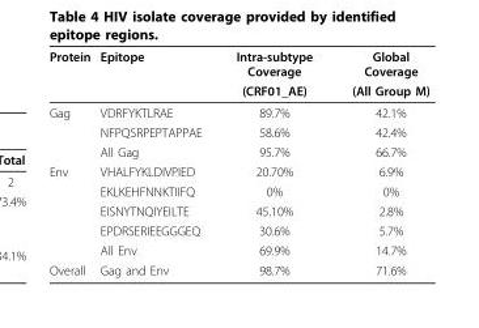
<table><thead><tr><td rowspan="2">Protein</td><td rowspan="2">Epitope</td><td rowspan="2">Intra-subtype Coverage (CRF01_AE)</td><td rowspan="2">Global Coverage (All Group M)</td></tr><tr></tr></thead><tbody><tr><td rowspan="3">Gag</td><td>VDRFYKTLRAE</td><td>89.7%</td><td>42.1%</td></tr><tr><td>NFPQSRPEPTAPPAE</td><td>58.6%</td><td>42.4%</td></tr><tr><td>All Gag</td><td>95.7%</td><td>66.7%</td></tr><tr><td rowspan="5">Env</td><td>VHALFYKLDIVPIED</td><td>20.70%</td><td>6.9%</td></tr><tr><td>EKLKEHFNNKTIIFQ</td><td>0%</td><td>0%</td></tr><tr><td>EISNYTNQIYEILTE</td><td>45.10%</td><td>2.8%</td></tr><tr><td>EPDRSERIEEGGGEQ</td><td>30.6%</td><td>5.7%</td></tr><tr><td>All Env</td><td>69.9%</td><td>14.7%</td></tr><tr><td>Overall</td><td>Gag and Env</td><td>98.7%</td><td>71.6%</td></tr></tbody></table>